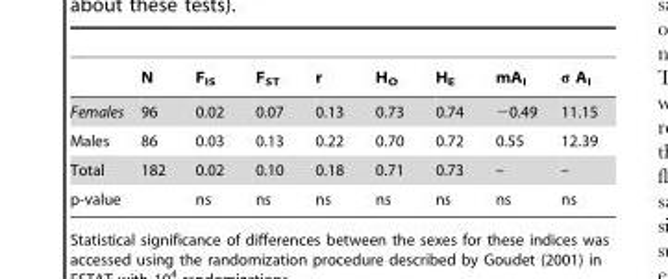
<table><thead><tr><td></td><td>N</td><td>F<sub>IS</sub></td><td>F<sub>ST</sub></td><td>r</td><td>H<sub>O</sub></td><td>H<sub>E</sub></td><td>mA<sub>I</sub></td><td>σ A<sub>I</sub></td></tr></thead><tbody><tr><td>Females</td><td>96</td><td>0.02</td><td>0.07</td><td>0.13</td><td>0.73</td><td>0.74</td><td>−0.49</td><td>11.15</td></tr><tr><td>Males</td><td>86</td><td>0.03</td><td>0.13</td><td>0.22</td><td>0.70</td><td>0.72</td><td>0.55</td><td>12.39</td></tr><tr><td>Total</td><td>182</td><td>0.02</td><td>0.10</td><td>0.18</td><td>0.71</td><td>0.73</td><td>–</td><td>–</td></tr><tr><td>p-value</td><td></td><td>ns</td><td>ns</td><td>ns</td><td>ns</td><td>ns</td><td>ns</td><td>ns</td></tr></tbody></table>